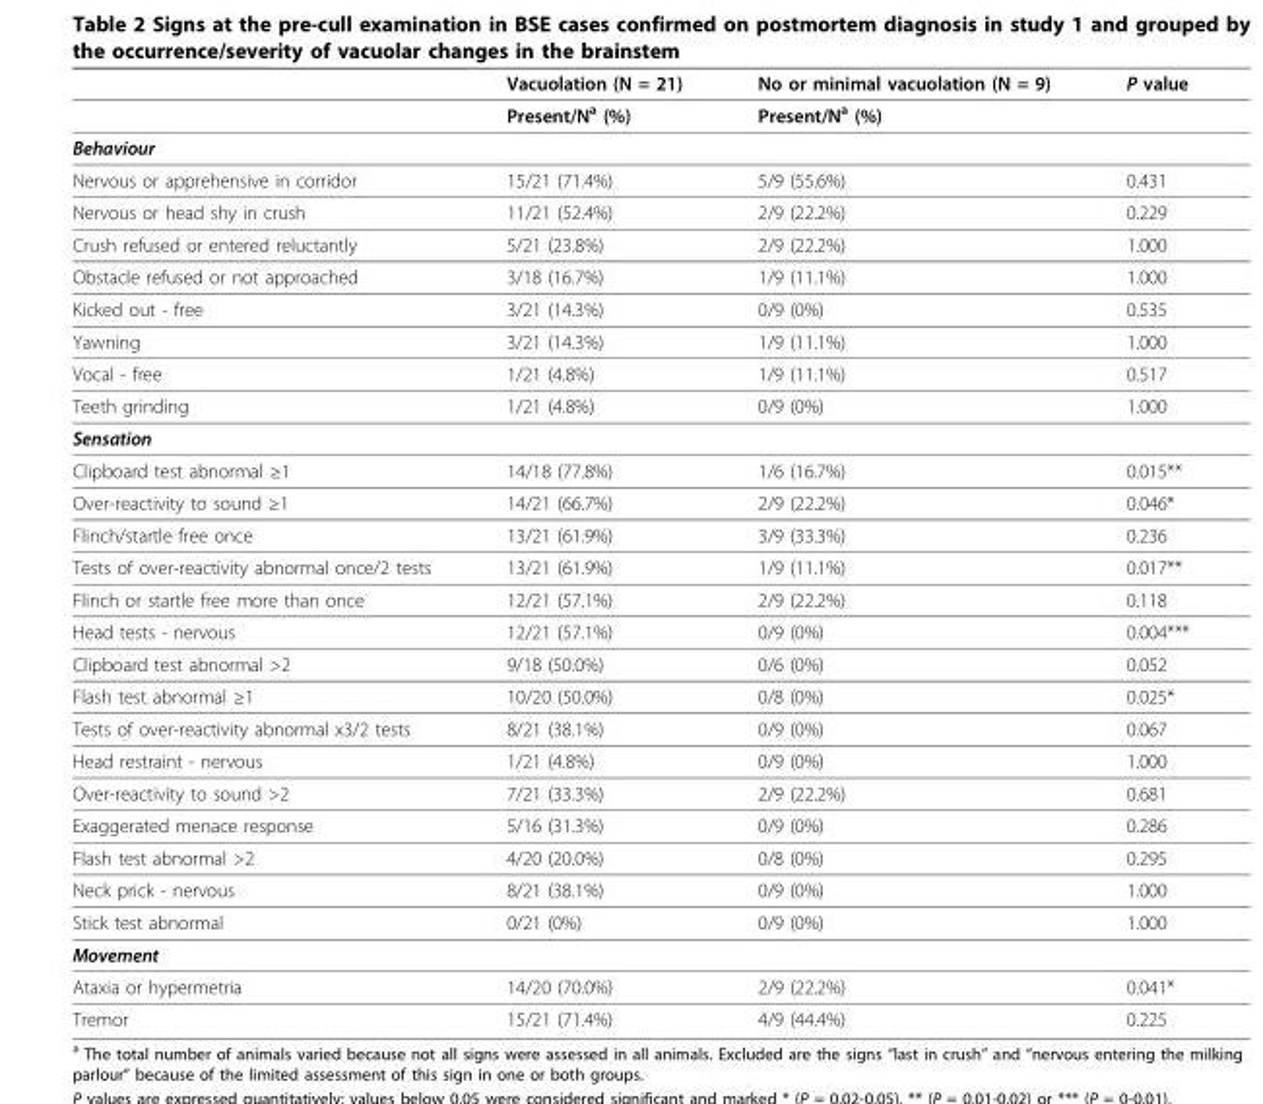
<table><thead><tr><td></td><td>Vacuolation (N = 21)</td><td>No or minimal vacuolation (N = 9)</td><td>P value</td></tr></thead><tbody><tr><td></td><td>Present/N<sup>a</sup> (%)</td><td>Present/N<sup>a</sup> (%)</td><td></td></tr><tr><td colspan="4">Behaviour</td></tr><tr><td>Nervous or apprehensive in corridor</td><td>15/21 (71.4%)</td><td>5/9 (55.6%)</td><td>0.431</td></tr><tr><td>Nervous or head shy in crush</td><td>11/21 (52.4%)</td><td>2/9 (22.2%)</td><td>0.229</td></tr><tr><td>Crush refused or entered reluctantly</td><td>5/21 (23.8%)</td><td>2/9 (22.2%)</td><td>1.000</td></tr><tr><td>Obstacle refused or not approached</td><td>3/18 (16.7%)</td><td>1/9 (11.1%)</td><td>1.000</td></tr><tr><td>Kicked out - free</td><td>3/21 (14.3%)</td><td>0/9 (0%)</td><td>0.535</td></tr><tr><td>Yawning</td><td>3/21 (14.3%)</td><td>1/9 (11.1%)</td><td>1.000</td></tr><tr><td>Vocal - free</td><td>1/21 (4.8%)</td><td>1/9 (11.1%)</td><td>0.517</td></tr><tr><td>Teeth grinding</td><td>1/21 (4.8%)</td><td>0/9 (0%)</td><td>1.000</td></tr><tr><td colspan="4">Sensation</td></tr><tr><td>Clipboard test abnormal ≥1</td><td>14/18 (77.8%)</td><td>1/6 (16.7%)</td><td>0.015**</td></tr><tr><td>Over-reactivity to sound ≥1</td><td>14/21 (66.7%)</td><td>2/9 (22.2%)</td><td>0.046*</td></tr><tr><td>Flinch/startle free once</td><td>13/21 (61.9%)</td><td>3/9 (33.3%)</td><td>0.236</td></tr><tr><td>Tests of over-reactivity abnormal once/2 tests</td><td>13/21 (61.9%)</td><td>1/9 (11.1%)</td><td>0.017**</td></tr><tr><td>Flinch or startle free more than once</td><td>12/21 (57.1%)</td><td>2/9 (22.2%)</td><td>0.118</td></tr><tr><td>Head tests - nervous</td><td>12/21 (57.1%)</td><td>0/9 (0%)</td><td>0.004***</td></tr><tr><td>Clipboard test abnormal &gt;2</td><td>9/18 (50.0%)</td><td>0/6 (0%)</td><td>0.052</td></tr><tr><td>Flash test abnormal ≥1</td><td>10/20 (50.0%)</td><td>0/8 (0%)</td><td>0.025*</td></tr><tr><td>Tests of over-reactivity abnormal x3/2 tests</td><td>8/21 (38.1%)</td><td>0/9 (0%)</td><td>0.067</td></tr><tr><td>Head restraint - nervous</td><td>1/21 (4.8%)</td><td>0/9 (0%)</td><td>1.000</td></tr><tr><td>Over-reactivity to sound &gt;2</td><td>7/21 (33.3%)</td><td>2/9 (22.2%)</td><td>0.681</td></tr><tr><td>Exaggerated menace response</td><td>5/16 (31.3%)</td><td>0/9 (0%)</td><td>0.286</td></tr><tr><td>Flash test abnormal &gt;2</td><td>4/20 (20.0%)</td><td>0/8 (0%)</td><td>0.295</td></tr><tr><td>Neck prick - nervous</td><td>8/21 (38.1%)</td><td>0/9 (0%)</td><td>1.000</td></tr><tr><td>Stick test abnormal</td><td>0/21 (0%)</td><td>0/9 (0%)</td><td>1.000</td></tr><tr><td colspan="4">Movement</td></tr><tr><td>Ataxia or hypermetria</td><td>14/20 (70.0%)</td><td>2/9 (22.2%)</td><td>0.041*</td></tr><tr><td>Tremor</td><td>15/21 (71.4%)</td><td>4/9 (44.4%)</td><td>0.225</td></tr></tbody></table>